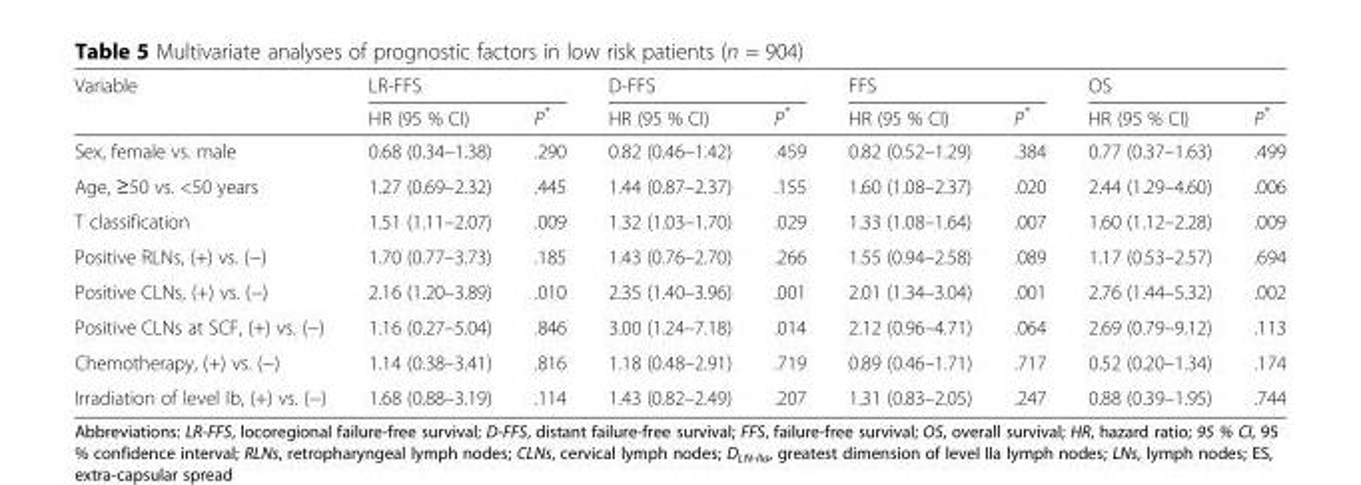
<table><thead><tr><td rowspan="2">Variable</td><td colspan="2">LR-FFS</td><td colspan="2">D-FFS</td><td colspan="2">FFS</td><td colspan="2">OS</td></tr><tr><td>HR (95 % CI)</td><td>P*</td><td>HR (95 % CI)</td><td>P*</td><td>HR (95 % CI)</td><td>P*</td><td>HR (95 % CI)</td><td>P*</td></tr></thead><tbody><tr><td>Sex, female vs. male</td><td>0.68 (0.34–1.38)</td><td>.290</td><td>0.82 (0.46–1.42)</td><td>.459</td><td>0.82 (0.52–1.29)</td><td>.384</td><td>0.77 (0.37–1.63)</td><td>.499</td></tr><tr><td>Age, ≥50 vs. &lt;50 years</td><td>1.27 (0.69–2.32)</td><td>.445</td><td>1.44 (0.87–2.37)</td><td>.155</td><td>1.60 (1.08–2.37)</td><td>.020</td><td>2.44 (1.29–4.60)</td><td>.006</td></tr><tr><td>T classification</td><td>1.51 (1.11–2.07)</td><td>.009</td><td>1.32 (1.03–1.70)</td><td>.029</td><td>1.33 (1.08–1.64)</td><td>.007</td><td>1.60 (1.12–2.28)</td><td>.009</td></tr><tr><td>Positive RLNs, (+) vs. (−)</td><td>1.70 (0.77–3.73)</td><td>.185</td><td>1.43 (0.76–2.70)</td><td>.266</td><td>1.55 (0.94–2.58)</td><td>.089</td><td>1.17 (0.53–2.57)</td><td>.694</td></tr><tr><td>Positive CLNs, (+) vs. (−)</td><td>2.16 (1.20–3.89)</td><td>.010</td><td>2.35 (1.40–3.96)</td><td>.001</td><td>2.01 (1.34–3.04)</td><td>.001</td><td>2.76 (1.44–5.32)</td><td>.002</td></tr><tr><td>Positive CLNs at SCF, (+) vs. (−)</td><td>1.16 (0.27–5.04)</td><td>.846</td><td>3.00 (1.24–7.18)</td><td>.014</td><td>2.12 (0.96–4.71)</td><td>.064</td><td>2.69 (0.79–9.12)</td><td>.113</td></tr><tr><td>Chemotherapy, (+) vs. (−)</td><td>1.14 (0.38–3.41)</td><td>.816</td><td>1.18 (0.48–2.91)</td><td>.719</td><td>0.89 (0.46–1.71)</td><td>.717</td><td>0.52 (0.20–1.34)</td><td>.174</td></tr><tr><td>Irradiation of level Ib, (+) vs. (−)</td><td>1.68 (0.88–3.19)</td><td>.114</td><td>1.43 (0.82–2.49)</td><td>.207</td><td>1.31 (0.83–2.05)</td><td>.247</td><td>0.88 (0.39–1.95)</td><td>.744</td></tr></tbody></table>